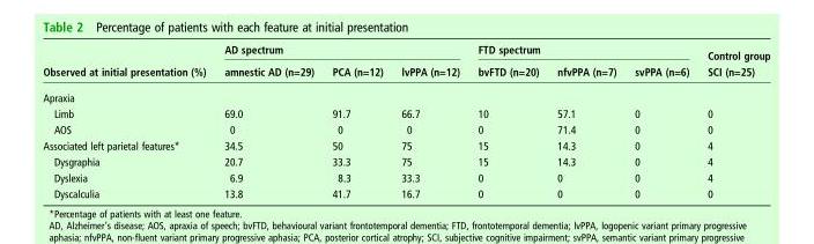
<table><thead><tr><td rowspan="2">Observed at initial presentation (%)</td><td colspan="3">AD spectrum</td><td colspan="3">FTD spectrum</td><td rowspan="2">Control group SCI (n=25)</td></tr><tr><td>amnestic AD (n=29)</td><td>PCA (n=12)</td><td>lvPPA (n=12)</td><td>bvFTD (n=20)</td><td>nfvPPA (n=7)</td><td>svPPA (n=6)</td></tr></thead><tbody><tr><td colspan="8">Apraxia</td></tr><tr><td>Limb</td><td>69.0</td><td>91.7</td><td>66.7</td><td>10</td><td>57.1</td><td>0</td><td>0</td></tr><tr><td>AOS</td><td>0</td><td>0</td><td>0</td><td>0</td><td>71.4</td><td>0</td><td>0</td></tr><tr><td>Associated left parietal features*</td><td>34.5</td><td>50</td><td>75</td><td>15</td><td>14.3</td><td>0</td><td>4</td></tr><tr><td>Dysgraphia</td><td>20.7</td><td>33.3</td><td>75</td><td>15</td><td>14.3</td><td>0</td><td>4</td></tr><tr><td>Dyslexia</td><td>6.9</td><td>8.3</td><td>33.3</td><td>0</td><td>0</td><td>0</td><td>4</td></tr><tr><td>Dyscalculia</td><td>13.8</td><td>41.7</td><td>16.7</td><td>0</td><td>0</td><td>0</td><td>0</td></tr></tbody></table>